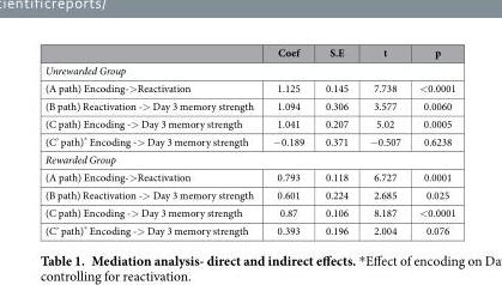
<table><thead><tr><td></td><td>Coef</td><td>S.E</td><td>t</td><td>p</td></tr></thead><tbody><tr><td colspan="5">Unrewarded Group</td></tr><tr><td>(A path) Encoding-&gt; Reactivation</td><td>1.125</td><td>0.145</td><td>7.738</td><td>&lt; 0.0001</td></tr><tr><td>(B path) Reactivation -&gt; Day 3 memory strength</td><td>1.094</td><td>0.306</td><td>3.577</td><td>0.0060</td></tr><tr><td>(C path) Encoding -&gt; Day 3 memory strength</td><td>1.041</td><td>0.207</td><td>5.02</td><td>0.0005</td></tr><tr><td>(C’ path)* Encoding -&gt; Day 3 memory strength</td><td>− 0.189</td><td>0.371</td><td>− 0.507</td><td>0.6238</td></tr><tr><td colspan="5">Rewarded Group</td></tr><tr><td>(A path) Encoding-&gt; Reactivation</td><td>0.793</td><td>0.118</td><td>6.727</td><td>0.0001</td></tr><tr><td>(B path) Reactivation -&gt; Day 3 memory strength</td><td>0.601</td><td>0.224</td><td>2.685</td><td>0.025</td></tr><tr><td>(C path) Encoding -&gt; Day 3 memory strength</td><td>0.87</td><td>0.106</td><td>8.187</td><td>&lt; 0.0001</td></tr><tr><td>(C’ path)* Encoding -&gt; Day 3 memory strength</td><td>0.393</td><td>0.196</td><td>2.004</td><td>0.076</td></tr></tbody></table>